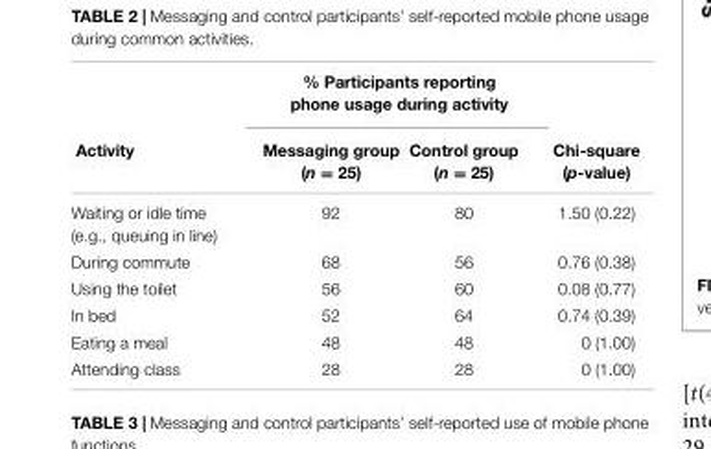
<table><thead><tr><td rowspan="2">Activity</td><td colspan="2">% Participants reporting phone usage during activity</td><td rowspan="2">Chi-square (p-value)</td></tr><tr><td>Messaging group (n = 25)</td><td>Control group (n = 25)</td></tr></thead><tbody><tr><td>Waiting or idle time (e.g., queuing in line)</td><td>92</td><td>80</td><td>1.50 (0.22)</td></tr><tr><td>During commute</td><td>68</td><td>56</td><td>0.76 (0.38)</td></tr><tr><td>Using the toilet</td><td>56</td><td>60</td><td>0.08 (0.77)</td></tr><tr><td>In bed</td><td>52</td><td>64</td><td>0.74 (0.39)</td></tr><tr><td>Eating a meal</td><td>48</td><td>48</td><td>0 (1.00)</td></tr><tr><td>Attending class</td><td>28</td><td>28</td><td>0 (1.00)</td></tr></tbody></table>